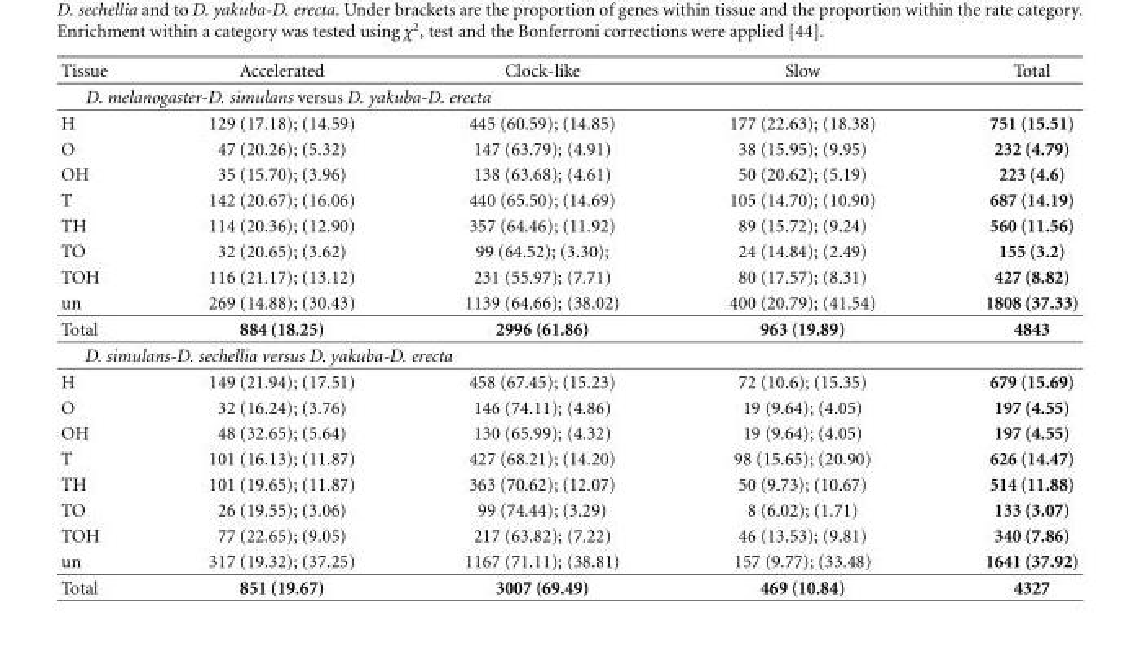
<table><thead><tr><td>Tissue</td><td>Accelerated</td><td>Clock-like</td><td>Slow</td><td>Total</td></tr></thead><tbody><tr><td colspan="5">D. melanogaster-D. simulans versus D. yakuba-D. erecta</td></tr><tr><td>H</td><td>129 (17.18); (14.59)</td><td>445 (60.59); (14.85)</td><td>177 (22.63); (18.38)</td><td>751 (15.51)</td></tr><tr><td>O</td><td>47 (20.26); (5.32)</td><td>147 (63.79); (4.91)</td><td>38 (15.95); (9.95)</td><td>232 (4.79)</td></tr><tr><td>OH</td><td>35 (15.70); (3.96)</td><td>138 (63.68); (4.61)</td><td>50 (20.62); (5.19)</td><td>223 (4.6)</td></tr><tr><td>T</td><td>142 (20.67); (16.06)</td><td>440 (65.50); (14.69)</td><td>105 (14.70); (10.90)</td><td>687 (14.19)</td></tr><tr><td>TH</td><td>114 (20.36); (12.90)</td><td>357 (64.46); (11.92)</td><td>89 (15.72); (9.24)</td><td>560 (11.56)</td></tr><tr><td>TO</td><td>32 (20.65); (3.62)</td><td>99 (64.52); (3.30);</td><td>24 (14.84); (2.49)</td><td>155 (3.2)</td></tr><tr><td>TOH</td><td>116 (21.17); (13.12)</td><td>231 (55.97); (7.71)</td><td>80 (17.57); (8.31)</td><td>427 (8.82)</td></tr><tr><td>un</td><td>269 (14.88); (30.43)</td><td>1139 (64.66); (38.02)</td><td>400 (20.79); (41.54)</td><td>1808 (37.33)</td></tr><tr><td>Total</td><td>884 (18.25)</td><td>2996 (61.86)</td><td>963 (19.89)</td><td>4843</td></tr><tr><td colspan="5">D. simulans-D. sechellia versus D. yakuba-D. erecta</td></tr><tr><td>H</td><td>149 (21.94); (17.51)</td><td>458 (67.45); (15.23)</td><td>72 (10.6); (15.35)</td><td>679 (15.69)</td></tr><tr><td>O</td><td>32 (16.24); (3.76)</td><td>146 (74.11); (4.86)</td><td>19 (9.64); (4.05)</td><td>197 (4.55)</td></tr><tr><td>OH</td><td>48 (32.65); (5.64)</td><td>130 (65.99); (4.32)</td><td>19 (9.64); (4.05)</td><td>197 (4.55)</td></tr><tr><td>T</td><td>101 (16.13); (11.87)</td><td>427 (68.21); (14.20)</td><td>98 (15.65); (20.90)</td><td>626 (14.47)</td></tr><tr><td>TH</td><td>101 (19.65); (11.87)</td><td>363 (70.62); (12.07)</td><td>50 (9.73); (10.67)</td><td>514 (11.88)</td></tr><tr><td>TO</td><td>26 (19.55); (3.06)</td><td>99 (74.44); (3.29)</td><td>8 (6.02); (1.71)</td><td>133 (3.07)</td></tr><tr><td>TOH</td><td>77 (22.65); (9.05)</td><td>217 (63.82); (7.22)</td><td>46 (13.53); (9.81)</td><td>340 (7.86)</td></tr><tr><td>un</td><td>317 (19.32); (37.25)</td><td>1167 (71.11); (38.81)</td><td>157 (9.77); (33.48)</td><td>1641 (37.92)</td></tr><tr><td>Total</td><td>851 (19.67)</td><td>3007 (69.49)</td><td>469 (10.84)</td><td>4327</td></tr></tbody></table>